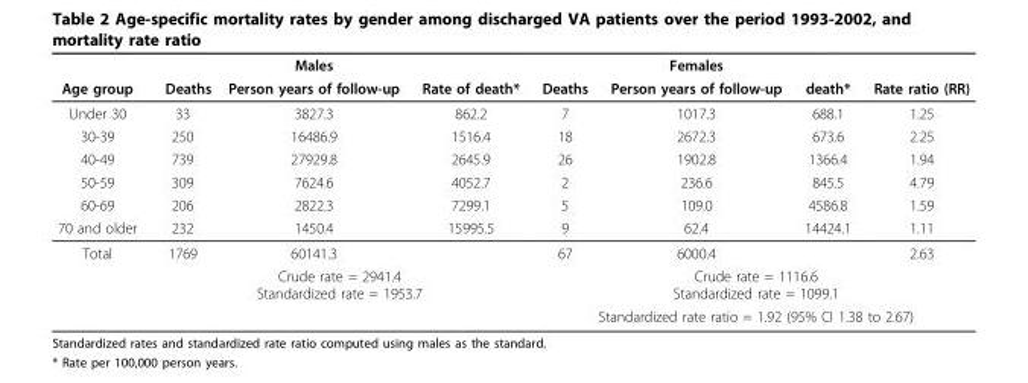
<table><thead><tr><td></td><td></td><td>Males</td><td></td><td></td><td>Females</td><td></td><td></td></tr></thead><tbody><tr><td>Age group</td><td>Deaths</td><td>Person years of follow-up</td><td>Rate of death*</td><td>Deaths</td><td>Person years of follow-up</td><td>death*</td><td>Rate ratio (RR)</td></tr><tr><td>Under 30</td><td>33</td><td>3827.3</td><td>862.2</td><td>7</td><td>1017.3</td><td>688.1</td><td>1.25</td></tr><tr><td>30-39</td><td>250</td><td>16486.9</td><td>1516.4</td><td>18</td><td>2672.3</td><td>673.6</td><td>2.25</td></tr><tr><td>40-49</td><td>739</td><td>27929.8</td><td>2645.9</td><td>26</td><td>1902.8</td><td>1366.4</td><td>1.94</td></tr><tr><td>50-59</td><td>309</td><td>7624.6</td><td>4052.7</td><td>2</td><td>236.6</td><td>845.5</td><td>4.79</td></tr><tr><td>60-69</td><td>206</td><td>2822.3</td><td>7299.1</td><td>5</td><td>109.0</td><td>4586.8</td><td>1.59</td></tr><tr><td>70 and older</td><td>232</td><td>1450.4</td><td>15995.5</td><td>9</td><td>62.4</td><td>14424.1</td><td>1.11</td></tr><tr><td rowspan="3">Total</td><td>1769</td><td>60141.3</td><td></td><td>67</td><td>6000.4</td><td></td><td>2.63</td></tr><tr><td colspan="3">Crude rate = 2941.4 Standardized rate = 1953.7</td><td colspan="4">Crude rate = 1116.6 Standardized rate = 1099.1</td></tr><tr><td></td><td></td><td></td><td colspan="4">Standardized rate ratio = 1.92 (95% CI 1.38 to 2.67)</td></tr></tbody></table>